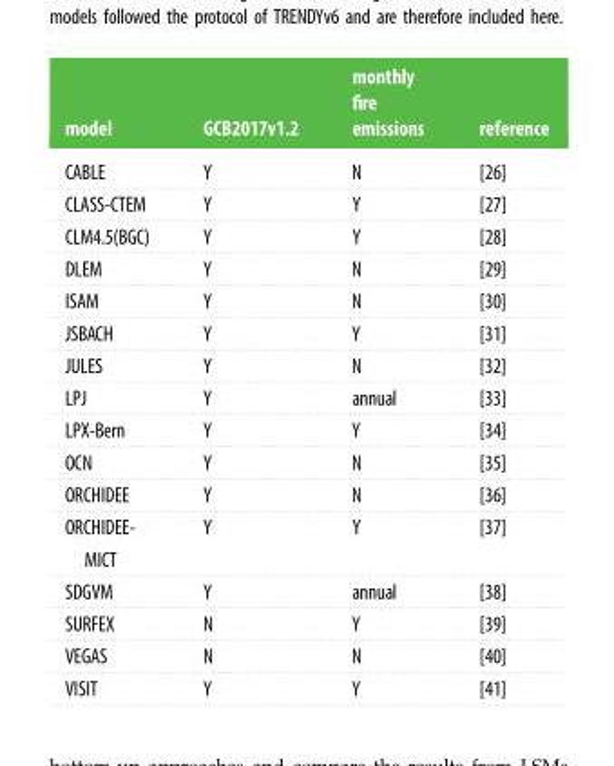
<table><thead><tr><td>model</td><td>GCB2017v1.2</td><td>monthly fire emissions</td><td>reference</td></tr></thead><tbody><tr><td>CABLE</td><td>Y</td><td>N</td><td>[26]</td></tr><tr><td>CLASS-CTEM</td><td>Y</td><td>Y</td><td>[27]</td></tr><tr><td>CLM4.5(BGC)</td><td>Y</td><td>Y</td><td>[28]</td></tr><tr><td>DLEM</td><td>Y</td><td>N</td><td>[29]</td></tr><tr><td>ISAM</td><td>Y</td><td>N</td><td>[30]</td></tr><tr><td>JSBACH</td><td>Y</td><td>Y</td><td>[31]</td></tr><tr><td>JULES</td><td>Y</td><td>N</td><td>[32]</td></tr><tr><td>LPJ</td><td>Y</td><td>annual</td><td>[33]</td></tr><tr><td>LPX-Bern</td><td>Y</td><td>Y</td><td>[34]</td></tr><tr><td>OCN</td><td>Y</td><td>N</td><td>[35]</td></tr><tr><td>ORCHIDEE</td><td>Y</td><td>N</td><td>[36]</td></tr><tr><td>ORCHIDEE- MICT</td><td>Y</td><td>Y</td><td>[37]</td></tr><tr><td>SDGVM</td><td>Y</td><td>annual</td><td>[38]</td></tr><tr><td>SURFEX</td><td>N</td><td>Y</td><td>[39]</td></tr><tr><td>VEGAS</td><td>N</td><td>N</td><td>[40]</td></tr><tr><td>VISIT</td><td>Y</td><td>Y</td><td>[41]</td></tr></tbody></table>